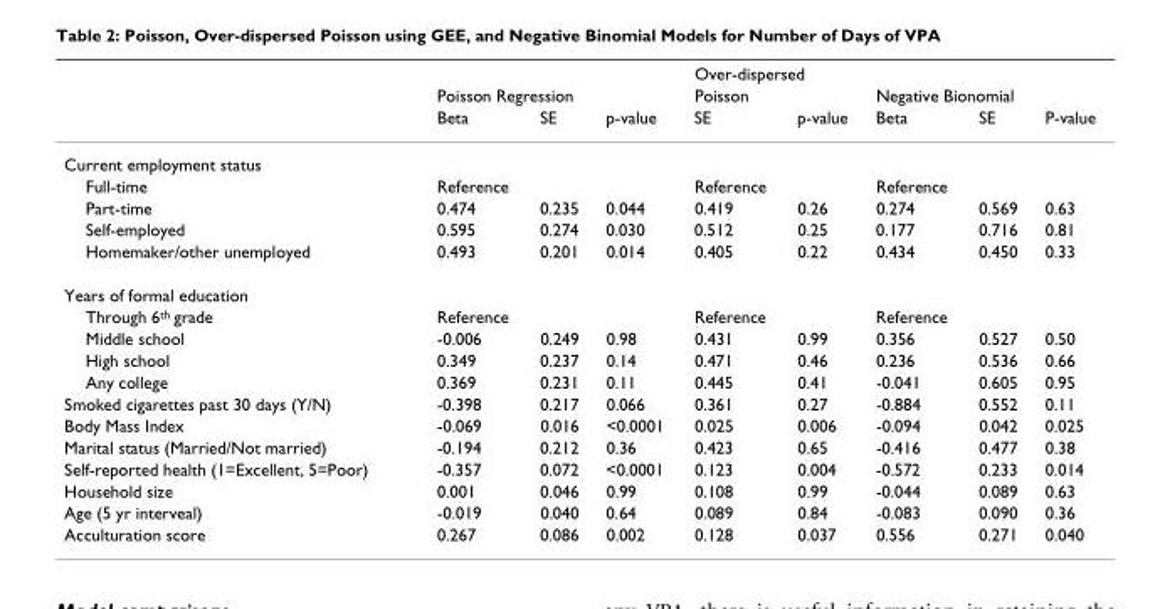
<table><thead><tr><td rowspan="3"></td><td></td><td></td><td></td><td rowspan="2" colspan="2">Over-dispersed Poisson</td><td></td><td></td><td></td></tr><tr><td colspan="3">Poisson Regression</td><td colspan="3">Negative Bionomial</td></tr><tr><td>Beta</td><td>SE</td><td>p-value</td><td>SE</td><td>p-value</td><td>Beta</td><td>SE</td><td>P-value</td></tr></thead><tbody><tr><td colspan="9">Current employment status</td></tr><tr><td>Full-time</td><td>Reference</td><td></td><td></td><td>Reference</td><td></td><td>Reference</td><td></td><td></td></tr><tr><td>Part-time</td><td>0.474</td><td>0.235</td><td>0.044</td><td>0.419</td><td>0.26</td><td>0.274</td><td>0.569</td><td>0.63</td></tr><tr><td>Self-employed</td><td>0.595</td><td>0.274</td><td>0.030</td><td>0.512</td><td>0.25</td><td>0.177</td><td>0.716</td><td>0.81</td></tr><tr><td>Homemaker/other unemployed</td><td>0.493</td><td>0.201</td><td>0.014</td><td>0.405</td><td>0.22</td><td>0.434</td><td>0.450</td><td>0.33</td></tr><tr><td colspan="9">Years of formal education</td></tr><tr><td>Through 6<sup>th</sup> grade</td><td>Reference</td><td></td><td></td><td>Reference</td><td></td><td>Reference</td><td></td><td></td></tr><tr><td>Middle school</td><td>-0.006</td><td>0.249</td><td>0.98</td><td>0.431</td><td>0.99</td><td>0.356</td><td>0.527</td><td>0.50</td></tr><tr><td>High school</td><td>0.349</td><td>0.237</td><td>0.14</td><td>0.471</td><td>0.46</td><td>0.236</td><td>0.536</td><td>0.66</td></tr><tr><td>Any college</td><td>0.369</td><td>0.231</td><td>0.11</td><td>0.445</td><td>0.41</td><td>-0.041</td><td>0.605</td><td>0.95</td></tr><tr><td>Smoked cigarettes past 30 days (Y/N)</td><td>-0.398</td><td>0.217</td><td>0.066</td><td>0.361</td><td>0.27</td><td>-0.884</td><td>0.552</td><td>0.11</td></tr><tr><td>Body Mass Index</td><td>-0.069</td><td>0.016</td><td>&lt;0.0001</td><td>0.025</td><td>0.006</td><td>-0.094</td><td>0.042</td><td>0.025</td></tr><tr><td>Marital status (Married/Not married)</td><td>-0.194</td><td>0.212</td><td>0.36</td><td>0.423</td><td>0.65</td><td>-0.416</td><td>0.477</td><td>0.38</td></tr><tr><td>Self-reported health (1=Excellent, 5=Poor)</td><td>-0.357</td><td>0.072</td><td>&lt;0.0001</td><td>0.123</td><td>0.004</td><td>-0.572</td><td>0.233</td><td>0.014</td></tr><tr><td>Household size</td><td>0.001</td><td>0.046</td><td>0.99</td><td>0.108</td><td>0.99</td><td>-0.044</td><td>0.089</td><td>0.63</td></tr><tr><td>Age (5 yr interveal)</td><td>-0.019</td><td>0.040</td><td>0.64</td><td>0.089</td><td>0.84</td><td>-0.083</td><td>0.090</td><td>0.36</td></tr><tr><td>Acculturation score</td><td>0.267</td><td>0.086</td><td>0.002</td><td>0.128</td><td>0.037</td><td>0.556</td><td>0.271</td><td>0.040</td></tr></tbody></table>